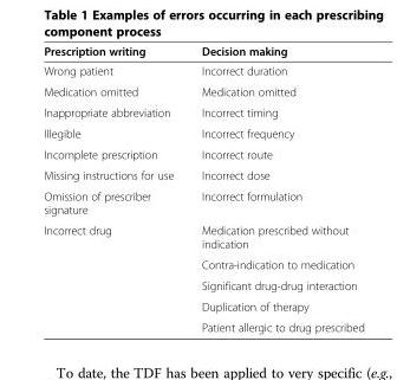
<table><thead><tr><td>Prescription writing</td><td>Decision making</td></tr></thead><tbody><tr><td>Wrong patient</td><td>Incorrect duration</td></tr><tr><td>Medication omitted</td><td>Medication omitted</td></tr><tr><td>Inappropriate abbreviation</td><td>Incorrect timing</td></tr><tr><td>Illegible</td><td>Incorrect frequency</td></tr><tr><td>Incomplete prescription</td><td>Incorrect route</td></tr><tr><td>Missing instructions for use</td><td>Incorrect dose</td></tr><tr><td>Omission of prescriber signature</td><td>Incorrect formulation</td></tr><tr><td rowspan="5">Incorrect drug</td><td>Medication prescribed without indication</td></tr><tr><td>Contra-indication to medication</td></tr><tr><td>Significant drug-drug interaction</td></tr><tr><td>Duplication of therapy</td></tr><tr><td>Patient allergic to drug prescribed</td></tr></tbody></table>